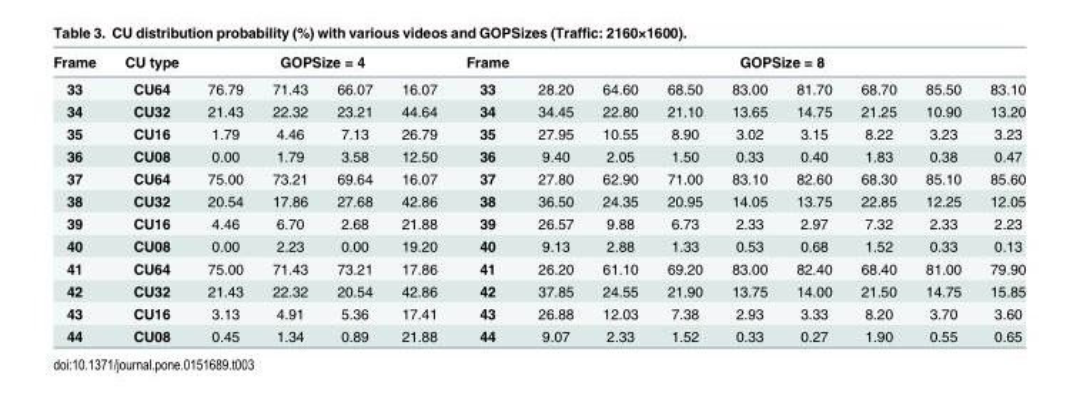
<table><thead><tr><td rowspan="2">Frame 33</td><td rowspan="2">CU type CU64</td><td colspan="4">GOPSize = 4</td><td rowspan="2">Frame 33</td><td colspan="8">GOPSize = 8</td></tr><tr><td>76.79</td><td>71.43</td><td>66.07</td><td>16.07</td><td>28.20</td><td>64.60</td><td>68.50</td><td>83.00</td><td>81.70</td><td>68.70</td><td>85.50</td><td>83.10</td></tr></thead><tbody><tr><td>34</td><td>CU32</td><td>21.43</td><td>22.32</td><td>23.21</td><td>44.64</td><td>34</td><td>34.45</td><td>22.80</td><td>21.10</td><td>13.65</td><td>14.75</td><td>21.25</td><td>10.90</td><td>13.20</td></tr><tr><td>35</td><td>CU16</td><td>1.79</td><td>4.46</td><td>7.13</td><td>26.79</td><td>35</td><td>27.95</td><td>10.55</td><td>8.90</td><td>3.02</td><td>3.15</td><td>8.22</td><td>3.23</td><td>3.23</td></tr><tr><td>36</td><td>CU08</td><td>0.00</td><td>1.79</td><td>3.58</td><td>12.50</td><td>36</td><td>9.40</td><td>2.05</td><td>1.50</td><td>0.33</td><td>0.40</td><td>1.83</td><td>0.38</td><td>0.47</td></tr><tr><td>37</td><td>CU64</td><td>75.00</td><td>73.21</td><td>69.64</td><td>16.07</td><td>37</td><td>27.80</td><td>62.90</td><td>71.00</td><td>83.10</td><td>82.60</td><td>68.30</td><td>85.10</td><td>85.60</td></tr><tr><td>38</td><td>CU32</td><td>20.54</td><td>17.86</td><td>27.68</td><td>42.86</td><td>38</td><td>36.50</td><td>24.35</td><td>20.95</td><td>14.05</td><td>13.75</td><td>22.85</td><td>12.25</td><td>12.05</td></tr><tr><td>39</td><td>CU16</td><td>4.46</td><td>6.70</td><td>2.68</td><td>21.88</td><td>39</td><td>26.57</td><td>9.88</td><td>6.73</td><td>2.33</td><td>2.97</td><td>7.32</td><td>2.33</td><td>2.23</td></tr><tr><td>40</td><td>CU08</td><td>0.00</td><td>2.23</td><td>0.00</td><td>19.20</td><td>40</td><td>9.13</td><td>2.88</td><td>1.33</td><td>0.53</td><td>0.68</td><td>1.52</td><td>0.33</td><td>0.13</td></tr><tr><td>41</td><td>CU64</td><td>75.00</td><td>71.43</td><td>73.21</td><td>17.86</td><td>41</td><td>26.20</td><td>61.10</td><td>69.20</td><td>83.00</td><td>82.40</td><td>68.40</td><td>81.00</td><td>79.90</td></tr><tr><td>42</td><td>CU32</td><td>21.43</td><td>22.32</td><td>20.54</td><td>42.86</td><td>42</td><td>37.85</td><td>24.55</td><td>21.90</td><td>13.75</td><td>14.00</td><td>21.50</td><td>14.75</td><td>15.85</td></tr><tr><td>43</td><td>CU16</td><td>3.13</td><td>4.91</td><td>5.36</td><td>17.41</td><td>43</td><td>26.88</td><td>12.03</td><td>7.38</td><td>2.93</td><td>3.33</td><td>8.20</td><td>3.70</td><td>3.60</td></tr><tr><td>44</td><td>CU08</td><td>0.45</td><td>1.34</td><td>0.89</td><td>21.88</td><td>44</td><td>9.07</td><td>2.33</td><td>1.52</td><td>0.33</td><td>0.27</td><td>1.90</td><td>0.55</td><td>0.65</td></tr></tbody></table>